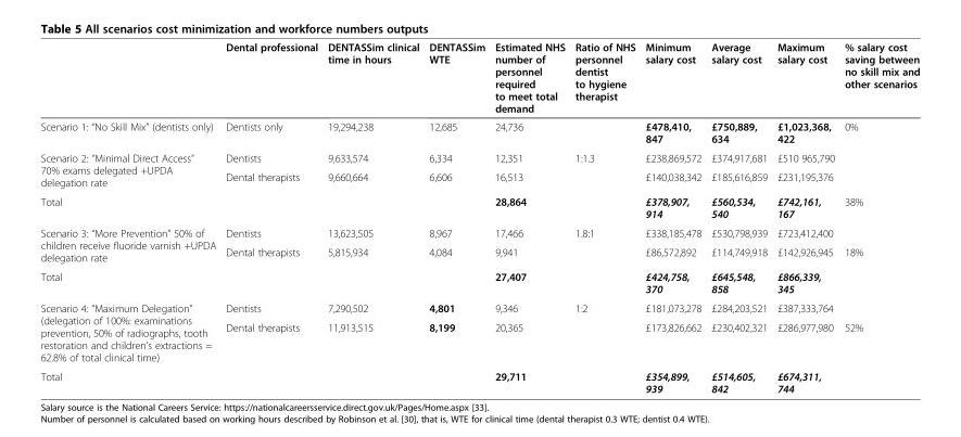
<table><thead><tr><td></td><td>Dental professional</td><td>DENTASSim clinical time in hours</td><td>DENTASSim WTE</td><td>Estimated NHS number of personnel required to meet total demand</td><td>Ratio of NHS personnel dentist to hygiene therapist</td><td>Minimum salary cost</td><td>Average salary cost</td><td>Maximum salary cost</td><td>% salary cost saving between no skill mix and other scenarios</td></tr></thead><tbody><tr><td>Scenario 1: “No Skill Mix” (dentists only)</td><td>Dentists only</td><td>19,294,238</td><td>12,685</td><td>24,736</td><td></td><td>£478,410, 847</td><td>£750,889, 634</td><td>£1,023,368, 422</td><td>0%</td></tr><tr><td rowspan="2">Scenario 2: “Minimal Direct Access” 70% exams delegated +UPDA delegation rate</td><td>Dentists</td><td>9,633,574</td><td>6,334</td><td>12,351</td><td>1:1.3</td><td>£238,869,572</td><td>£374,917,681</td><td>£510 965,790</td><td></td></tr><tr><td>Dental therapists</td><td>9,660,664</td><td>6,606</td><td>16,513</td><td></td><td>£140,038,342</td><td>£185,616,859</td><td>£231,195,376</td><td></td></tr><tr><td>Total</td><td></td><td></td><td></td><td>28,864</td><td></td><td>£378,907, 914</td><td>£560,534, 540</td><td>£742,161, 167</td><td>38%</td></tr><tr><td rowspan="2">Scenario 3: “More Prevention” 50% of children receive fluoride varnish +UPDA delegation rate</td><td>Dentists</td><td>13,623,505</td><td>8,967</td><td>17,466</td><td>1.8:1</td><td>£338,185,478</td><td>£530,798,939</td><td>£723,412,400</td><td></td></tr><tr><td>Dental therapists</td><td>5,815,934</td><td>4,084</td><td>9,941</td><td></td><td>£86,572,892</td><td>£114,749,918</td><td>£142,926,945</td><td>18%</td></tr><tr><td>Total</td><td></td><td></td><td></td><td>27,407</td><td></td><td>£424,758, 370</td><td>£645,548, 858</td><td>£866,339, 345</td><td></td></tr><tr><td rowspan="2">Scenario 4: “Maximum Delegation” (delegation of 100%: examinations prevention, 50% of radiographs, tooth restoration and children’s extractions = 62.8% of total clinical time)</td><td>Dentists</td><td>7,290,502</td><td>4,801</td><td>9,346</td><td>1:2</td><td>£181,073,278</td><td>£284,203,521</td><td>£387,333,764</td><td></td></tr><tr><td>Dental therapists</td><td>11,913,515</td><td>8,199</td><td>20,365</td><td></td><td>£173,826,662</td><td>£230,402,321</td><td>£286,977,980</td><td>52%</td></tr><tr><td>Total</td><td></td><td></td><td></td><td>29,711</td><td></td><td>£354,899, 939</td><td>£514,605, 842</td><td>£674,311, 744</td><td></td></tr></tbody></table>